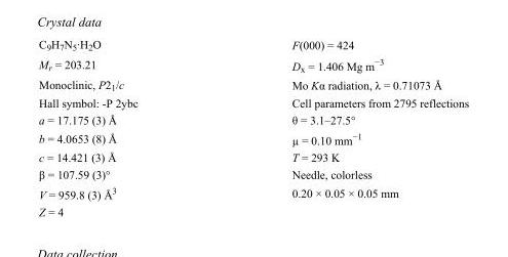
<table><tbody><tr><td>C<sub>9</sub>H<sub>7</sub>N<sub>5</sub>·H<sub>2</sub>O</td><td>F(000) = 424</td></tr><tr><td>M<sub>r</sub> = 203.21</td><td>D<sub>x</sub> = 1.406 Mg m<sup>−3</sup></td></tr><tr><td>Monoclinic, P2<sub>1</sub>/c</td><td>Mo Kα radiation, λ = 0.71073 Å</td></tr><tr><td>Hall symbol: -P 2ybc</td><td>Cell parameters from 2795 reflections</td></tr><tr><td>a = 17.175 (3) Å</td><td>θ = 3.1–27.5°</td></tr><tr><td>b = 4.0653 (8) Å</td><td>µ = 0.10 mm<sup>−1</sup></td></tr><tr><td>c = 14.421 (3) Å</td><td>T = 293 K</td></tr><tr><td>β = 107.59 (3)°</td><td>Needle, colorless</td></tr><tr><td>V = 959.8 (3) Å<sup>3</sup></td><td>0.20 × 0.05 × 0.05 mm</td></tr><tr><td>Z = 4</td><td></td></tr></tbody></table>